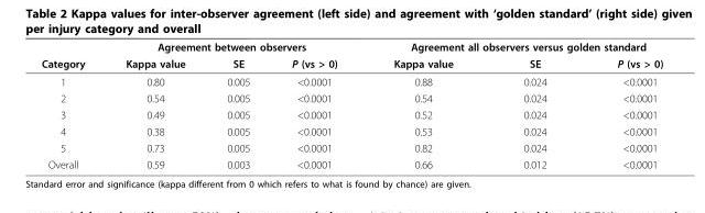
<table><thead><tr><td rowspan="2">Category</td><td colspan="3">Agreement between observers</td><td colspan="3">Agreement all observers versus golden standard</td></tr><tr><td>Kappa value</td><td>SE</td><td>P (vs &gt; 0)</td><td>Kappa value</td><td>SE</td><td>P (vs &gt; 0)</td></tr></thead><tbody><tr><td>1</td><td>0.80</td><td>0.005</td><td>&lt;0.0001</td><td>0.88</td><td>0.024</td><td>&lt;0.0001</td></tr><tr><td>2</td><td>0.54</td><td>0.005</td><td>&lt;0.0001</td><td>0.54</td><td>0.024</td><td>&lt;0.0001</td></tr><tr><td>3</td><td>0.49</td><td>0.005</td><td>&lt;0.0001</td><td>0.52</td><td>0.024</td><td>&lt;0.0001</td></tr><tr><td>4</td><td>0.38</td><td>0.005</td><td>&lt;0.0001</td><td>0.53</td><td>0.024</td><td>&lt;0.0001</td></tr><tr><td>5</td><td>0.73</td><td>0.005</td><td>&lt;0.0001</td><td>0.82</td><td>0.024</td><td>&lt;0.0001</td></tr><tr><td>Overall</td><td>0.59</td><td>0.003</td><td>&lt;0.0001</td><td>0.66</td><td>0.012</td><td>&lt;0.0001</td></tr></tbody></table>